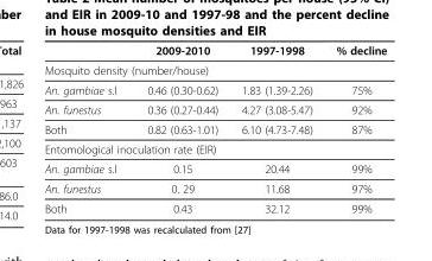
<table><thead><tr><td></td><td>2009-2010</td><td>1997-1998</td><td>% decline</td></tr></thead><tbody><tr><td colspan="4">Mosquito density (number/house)</td></tr><tr><td>An. gambiae s.l</td><td>0.46 (0.30-0.62)</td><td>1.83 (1.39-2.26)</td><td>75%</td></tr><tr><td>An. funestus</td><td>0.36 (0.27-0.44)</td><td>4.27 (3.08-5.47)</td><td>92%</td></tr><tr><td>Both</td><td>0.82 (0.63-1.01)</td><td>6.10 (4.73-7.48)</td><td>87%</td></tr><tr><td colspan="4">Entomological inoculation rate (EIR)</td></tr><tr><td>An. gambiae s.l</td><td>0.15</td><td>20.44</td><td>99%</td></tr><tr><td>An. funestus</td><td>0. 29</td><td>11.68</td><td>97%</td></tr><tr><td>Both</td><td>0.43</td><td>32.12</td><td>99%</td></tr></tbody></table>